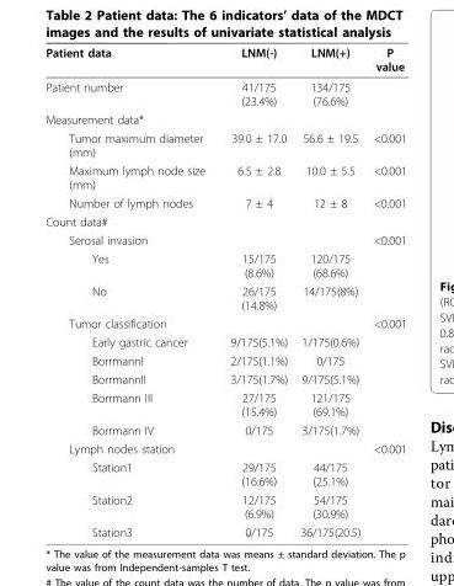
<table><thead><tr><td>Patient data</td><td>LNM(-)</td><td>LNM(+)</td><td>P value</td></tr></thead><tbody><tr><td>Patient number</td><td>41/175 (23.4%)</td><td>134/175 (76.6%)</td><td></td></tr><tr><td colspan="4">Measurement data*</td></tr><tr><td>Tumor maximum diameter (mm)</td><td>39.0 ± 17.0</td><td>56.6 ± 19.5</td><td>&lt;0.001</td></tr><tr><td>Maximum lymph node size (mm)</td><td>6.5 ± 2.8</td><td>10.0 ± 5.5</td><td>&lt;0.001</td></tr><tr><td>Number of lymph nodes</td><td>7 ± 4</td><td>12 ± 8</td><td>&lt;0.001</td></tr><tr><td colspan="4">Count data#</td></tr><tr><td>Serosal invasion</td><td></td><td></td><td>&lt;0.001</td></tr><tr><td>Yes</td><td>15/175 (8.6%)</td><td>120/175 (68.6%)</td><td></td></tr><tr><td>No</td><td>26/175 (14.8%)</td><td>14/175(8%)</td><td></td></tr><tr><td>Tumor classification</td><td></td><td></td><td>&lt;0.001</td></tr><tr><td>Early gastric cancer</td><td>9/175(5.1%)</td><td>1/175(0.6%)</td><td></td></tr><tr><td>BorrmannI</td><td>2/175(1.1%)</td><td>0/175</td><td></td></tr><tr><td>BorrmannII</td><td>3/175(1.7%)</td><td>9/175(5.1%)</td><td></td></tr><tr><td>Borrmann III</td><td>27/175 (15.4%)</td><td>121/175 (69.1%)</td><td></td></tr><tr><td>Borrmann IV</td><td>0/175</td><td>3/175(1.7%)</td><td></td></tr><tr><td>Lymph nodes station</td><td></td><td></td><td>&lt;0.001</td></tr><tr><td>Station1</td><td>29/175 (16.6%)</td><td>44/175 (25.1%)</td><td></td></tr><tr><td>Station2</td><td>12/175 (6.9%)</td><td>54/175 (30.9%)</td><td></td></tr><tr><td>Station3</td><td>0/175</td><td>36/175(20.5)</td><td></td></tr></tbody></table>